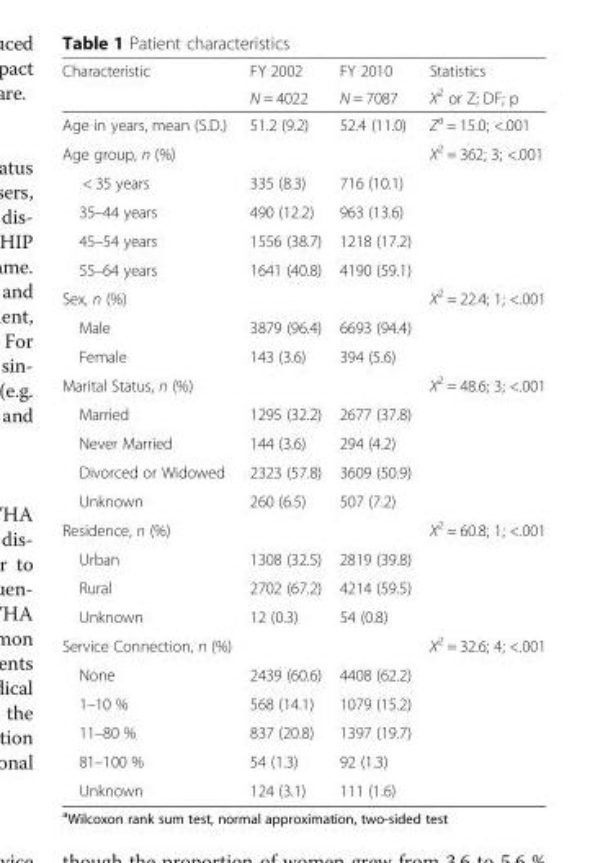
<table><thead><tr><td rowspan="2">Characteristic</td><td rowspan="2">FY 2002 N = 4022</td><td rowspan="2">FY 2010 N = 7087</td><td rowspan="2">Statistics X<sup>2</sup> or Z; DF; p</td></tr><tr></tr></thead><tbody><tr><td>Age in years, mean (S.D.)</td><td>51.2 (9.2)</td><td>52.4 (11.0)</td><td>Z<sup>a</sup> = 15.0; &lt;.001</td></tr><tr><td>Age group, n (%)</td><td></td><td></td><td>X<sup>2</sup> = 362; 3; &lt;.001</td></tr><tr><td>&lt; 35 years</td><td>335 (8.3)</td><td>716 (10.1)</td><td></td></tr><tr><td>35–44 years</td><td>490 (12.2)</td><td>963 (13.6)</td><td></td></tr><tr><td>45–54 years</td><td>1556 (38.7)</td><td>1218 (17.2)</td><td></td></tr><tr><td>55–64 years</td><td>1641 (40.8)</td><td>4190 (59.1)</td><td></td></tr><tr><td>Sex, n (%)</td><td></td><td></td><td>X<sup>2</sup> = 22.4; 1; &lt;.001</td></tr><tr><td>Male</td><td>3879 (96.4)</td><td>6693 (94.4)</td><td></td></tr><tr><td>Female</td><td>143 (3.6)</td><td>394 (5.6)</td><td></td></tr><tr><td>Marital Status, n (%)</td><td></td><td></td><td>X<sup>2</sup> = 48.6; 3; &lt;.001</td></tr><tr><td>Married</td><td>1295 (32.2)</td><td>2677 (37.8)</td><td></td></tr><tr><td>Never Married</td><td>144 (3.6)</td><td>294 (4.2)</td><td></td></tr><tr><td>Divorced or Widowed</td><td>2323 (57.8)</td><td>3609 (50.9)</td><td></td></tr><tr><td>Unknown</td><td>260 (6.5)</td><td>507 (7.2)</td><td></td></tr><tr><td>Residence, n (%)</td><td></td><td></td><td>X<sup>2</sup> = 60.8; 1; &lt;.001</td></tr><tr><td>Urban</td><td>1308 (32.5)</td><td>2819 (39.8)</td><td></td></tr><tr><td>Rural</td><td>2702 (67.2)</td><td>4214 (59.5)</td><td></td></tr><tr><td>Unknown</td><td>12 (0.3)</td><td>54 (0.8)</td><td></td></tr><tr><td>Service Connection, n (%)</td><td></td><td></td><td>X<sup>2</sup> = 32.6; 4; &lt;.001</td></tr><tr><td>None</td><td>2439 (60.6)</td><td>4408 (62.2)</td><td></td></tr><tr><td>1–10 %</td><td>568 (14.1)</td><td>1079 (15.2)</td><td></td></tr><tr><td>11–80 %</td><td>837 (20.8)</td><td>1397 (19.7)</td><td></td></tr><tr><td>81–100 %</td><td>54 (1.3)</td><td>92 (1.3)</td><td></td></tr><tr><td>Unknown</td><td>124 (3.1)</td><td>111 (1.6)</td><td></td></tr></tbody></table>